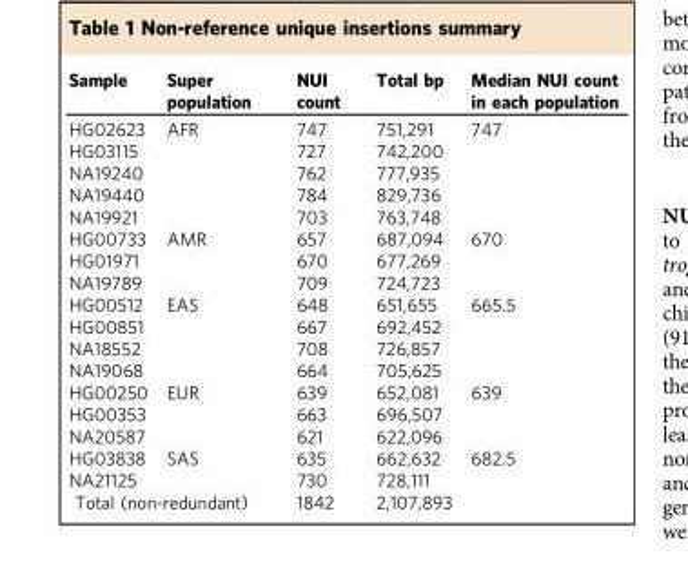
<table><thead><tr><td>Sample</td><td>Super population</td><td>NUI count</td><td>Total bp</td><td>Median NUI count in each population</td></tr></thead><tbody><tr><td>HG02623</td><td rowspan="5">AFR</td><td>747</td><td>751,291</td><td rowspan="5">747</td></tr><tr><td>HG03115</td><td>727</td><td>742,200</td></tr><tr><td>NA19240</td><td>762</td><td>777,935</td></tr><tr><td>NA19440</td><td>784</td><td>829,736</td></tr><tr><td>NA19921</td><td>703</td><td>763,748</td></tr><tr><td>HG00733</td><td rowspan="3">AMR</td><td>657</td><td>687,094</td><td rowspan="3">670</td></tr><tr><td>HG01971</td><td>670</td><td>677,269</td></tr><tr><td>NA19789</td><td>709</td><td>724,723</td></tr><tr><td>HG00512</td><td rowspan="4">EAS</td><td>648</td><td>651,655</td><td rowspan="4">665.5</td></tr><tr><td>HG00851</td><td>667</td><td>692,452</td></tr><tr><td>NA18552</td><td>708</td><td>726,857</td></tr><tr><td>NA19068</td><td>664</td><td>705,625</td></tr><tr><td>HG00250</td><td rowspan="3">EUR</td><td>639</td><td>652,081</td><td rowspan="3">639</td></tr><tr><td>HG00353</td><td>663</td><td>696,507</td></tr><tr><td>NA20587</td><td>621</td><td>622,096</td></tr><tr><td>HG03838</td><td rowspan="2">SAS</td><td>635</td><td>662,632</td><td rowspan="2">682.5</td></tr><tr><td>NA21125</td><td>730</td><td>728,111</td></tr><tr><td colspan="2">Total (non-redundant)</td><td>1842</td><td>2,107,893</td><td></td></tr></tbody></table>